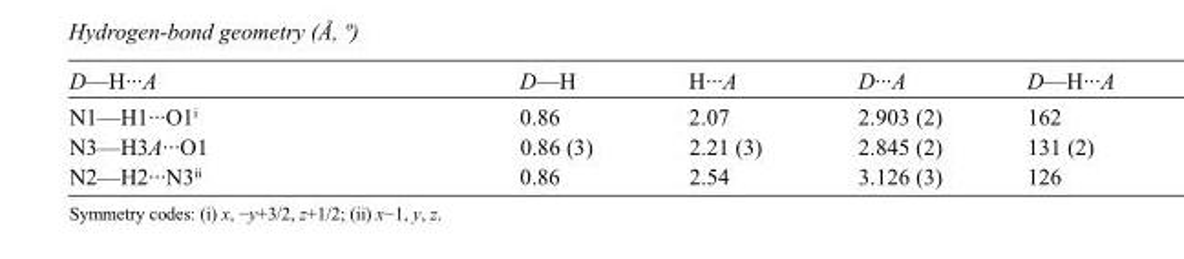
<table><tbody><tr><td>D—H···A</td><td>D—H</td><td>H···A</td><td>D···A</td><td>D—H···A</td></tr><tr><td>N1—H1···O1<sup>i</sup></td><td>0.86</td><td>2.07</td><td>2.903 (2)</td><td>162</td></tr><tr><td>N3—H3A···O1</td><td>0.86 (3)</td><td>2.21 (3)</td><td>2.845 (2)</td><td>131 (2)</td></tr><tr><td>N2—H2···N3<sup>ii</sup></td><td>0.86</td><td>2.54</td><td>3.126 (3)</td><td>126</td></tr></tbody></table>